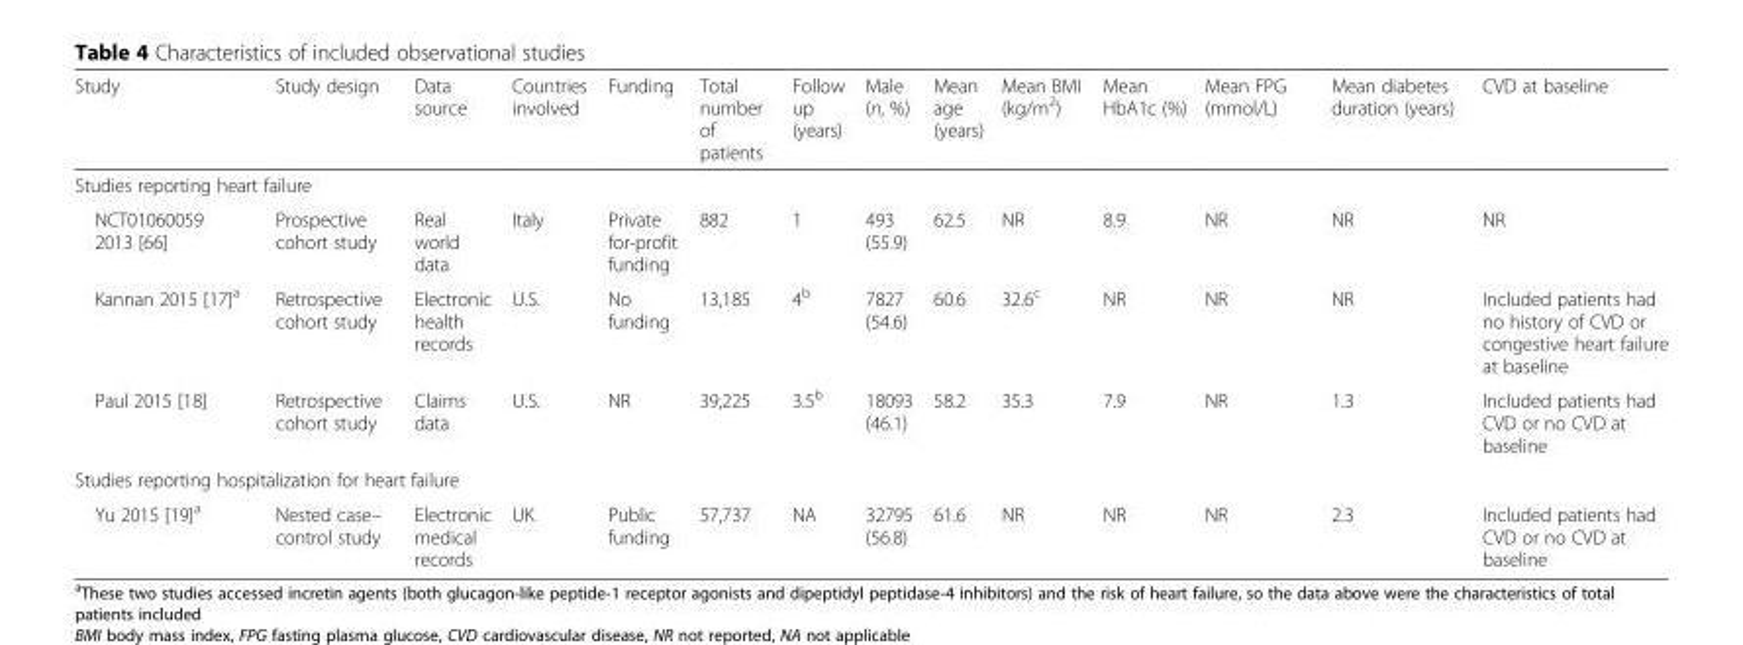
<table><thead><tr><td>Study</td><td>Study design</td><td>Data source</td><td>Countries involved</td><td>Funding</td><td>Total number of patients</td><td>Follow up (years)</td><td>Male (n, %)</td><td>Mean age (years)</td><td>Mean BMI (kg/m<sup>2</sup>)</td><td>Mean HbA1c (%)</td><td>Mean FPG (mmol/L)</td><td>Mean diabetes duration (years)</td><td>CVD at baseline</td></tr></thead><tbody><tr><td colspan="14">Studies reporting heart failure</td></tr><tr><td>NCT01060059 2013 [66]</td><td>Prospective cohort study</td><td>Real world data</td><td>Italy</td><td>Private for-profit funding</td><td>882</td><td>1</td><td>493 (55.9)</td><td>62.5</td><td>NR</td><td>8.9</td><td>NR</td><td>NR</td><td>NR</td></tr><tr><td>Kannan 2015 [17]<sup>a</sup></td><td>Retrospective cohort study</td><td>Electronic health records</td><td>U.S.</td><td>No funding</td><td>13,185</td><td>4<sup>b</sup></td><td>7827 (54.6)</td><td>60.6</td><td>32.6<sup>c</sup></td><td>NR</td><td>NR</td><td>NR</td><td>Included patients had no history of CVD or congestive heart failure at baseline</td></tr><tr><td>Paul 2015 [18]</td><td>Retrospective cohort study</td><td>Claims data</td><td>U.S.</td><td>NR</td><td>39,225</td><td>3.5<sup>b</sup></td><td>18093 (46.1)</td><td>58.2</td><td>35.3</td><td>7.9</td><td>NR</td><td>1.3</td><td>Included patients had CVD or no CVD at baseline</td></tr><tr><td colspan="14">Studies reporting hospitalization for heart failure</td></tr><tr><td>Yu 2015 [19]<sup>a</sup></td><td>Nested case– control study</td><td>Electronic medical records</td><td>UK</td><td>Public funding</td><td>57,737</td><td>NA</td><td>32795 (56.8)</td><td>61.6</td><td>NR</td><td>NR</td><td>NR</td><td>2.3</td><td>Included patients had CVD or no CVD at baseline</td></tr></tbody></table>